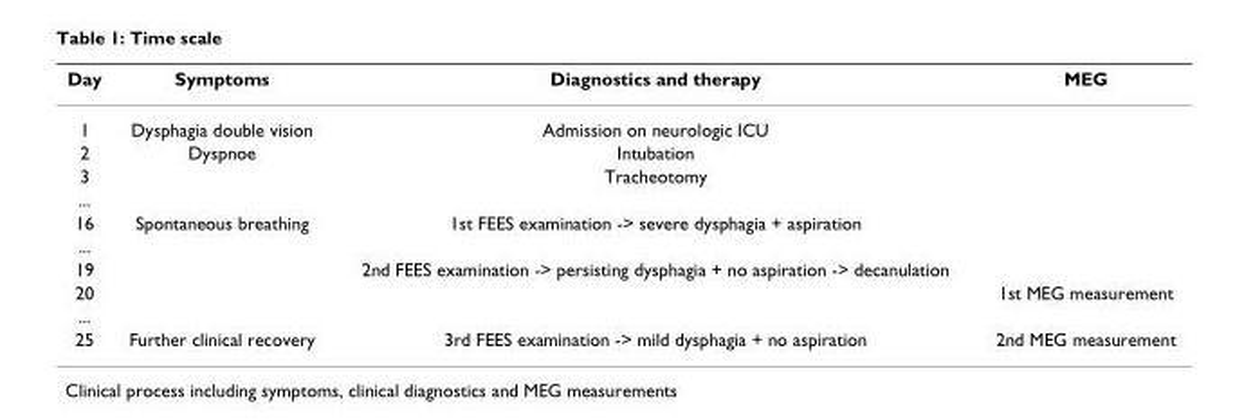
<table><thead><tr><td>Day</td><td>Symptoms</td><td>Diagnostics and therapy</td><td>MEG</td></tr></thead><tbody><tr><td>1</td><td>Dysphagia double vision</td><td>Admission on neurologic ICU</td><td></td></tr><tr><td>2</td><td>Dyspnoe</td><td>Intubation</td><td></td></tr><tr><td>3</td><td></td><td>Tracheotomy</td><td></td></tr><tr><td colspan="4">...</td></tr><tr><td>16</td><td>Spontaneous breathing</td><td>1st FEES examination -&gt; severe dysphagia + aspiration</td><td></td></tr><tr><td colspan="4">...</td></tr><tr><td>19</td><td></td><td>2nd FEES examination -&gt; persisting dysphagia + no aspiration -&gt; decanulation</td><td></td></tr><tr><td>20</td><td></td><td></td><td>1st MEG measurement</td></tr><tr><td colspan="4">...</td></tr><tr><td>25</td><td>Further clinical recovery</td><td>3rd FEES examination -&gt; mild dysphagia + no aspiration</td><td>2nd MEG measurement</td></tr></tbody></table>